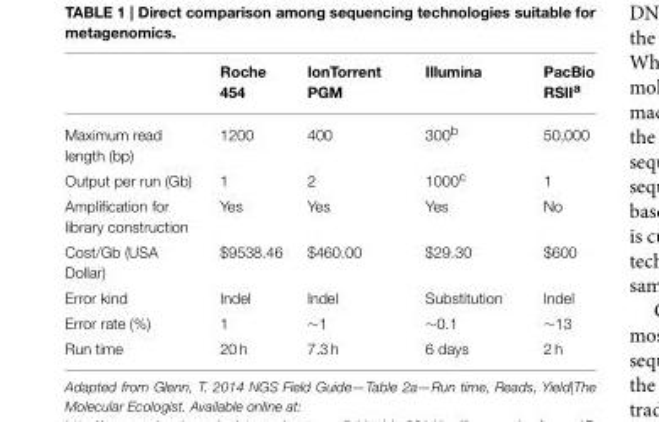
<table><thead><tr><td></td><td>Roche 454</td><td>IonTorrent PGM</td><td>Illumina</td><td>PacBio RSII<sup>a</sup></td></tr></thead><tbody><tr><td>Maximum read length (bp)</td><td>1200</td><td>400</td><td>300<sup>b</sup></td><td>50,000</td></tr><tr><td>Output per run (Gb)</td><td>1</td><td>2</td><td>1000<sup>c</sup></td><td>1</td></tr><tr><td>Amplification for library construction</td><td>Yes</td><td>Yes</td><td>Yes</td><td>No</td></tr><tr><td>Cost/Gb (USA Dollar)</td><td>$9538.46</td><td>$460.00</td><td>$29.30</td><td>$600</td></tr><tr><td>Error kind</td><td>Indel</td><td>Indel</td><td>Substitution</td><td>Indel</td></tr><tr><td>Error rate (%)</td><td>1</td><td>∼1</td><td>∼0.1</td><td>∼13</td></tr><tr><td>Run time</td><td>20 h</td><td>7.3 h</td><td>6 days</td><td>2 h</td></tr></tbody></table>